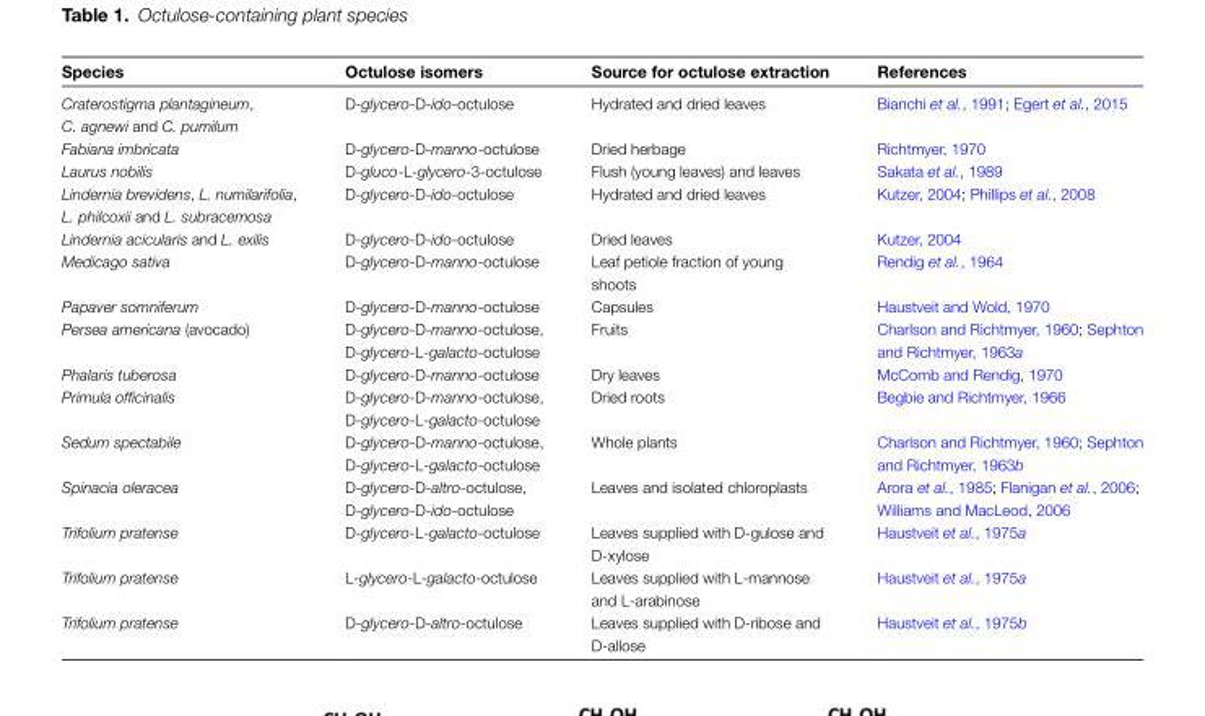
<table><thead><tr><td>Species</td><td>Octulose isomers</td><td>Source for octulose extraction</td><td>References</td></tr></thead><tbody><tr><td>Craterostigma plantagineum, C. agnewi and C. pumilum</td><td>D-glycero-D-ido-octulose</td><td>Hydrated and dried leaves</td><td>Bianchi et al., 1991; Egert et al., 2015</td></tr><tr><td>Fabiana imbricata</td><td>D-glycero-D-manno-octulose</td><td>Dried herbage</td><td>Richtmyer, 1970</td></tr><tr><td>Laurus nobilis</td><td>D-gluco-L-glycero-3-octulose</td><td>Flush (young leaves) and leaves</td><td>Sakata et al., 1989</td></tr><tr><td>Lindernia brevidens, L. numilarifolia, L. philcoxii and L. subracemosa</td><td>D-glycero-D-ido-octulose</td><td>Hydrated and dried leaves</td><td>Kutzer, 2004; Phillips et al., 2008</td></tr><tr><td>Lindernia acicularis and L. exilis</td><td>D-glycero-D-ido-octulose</td><td>Dried leaves</td><td>Kutzer, 2004</td></tr><tr><td>Medicago sativa</td><td>D-glycero-D-manno-octulose</td><td>Leaf petiole fraction of young shoots</td><td>Rendig et al., 1964</td></tr><tr><td>Papaver somniferum</td><td>D-glycero-D-manno-octulose</td><td>Capsules</td><td>Haustveit and Wold, 1970</td></tr><tr><td>Persea americana (avocado)</td><td>D-glycero-D-manno-octulose, D-glycero-L-galacto-octulose</td><td>Fruits</td><td>Charlson and Richtmyer, 1960; Sephton and Richtmyer, 1963a</td></tr><tr><td>Phalaris tuberosa</td><td>D-glycero-D-manno-octulose</td><td>Dry leaves</td><td>McComb and Rendig, 1970</td></tr><tr><td>Primula officinalis</td><td>D-glycero-D-manno-octulose, D-glycero-L-galacto-octulose</td><td>Dried roots</td><td>Begbie and Richtmyer, 1966</td></tr><tr><td>Sedum spectabile</td><td>D-glycero-D-manno-octulose, D-glycero-L-galacto-octulose</td><td>Whole plants</td><td>Charlson and Richtmyer, 1960; Sephton and Richtmyer, 1963b</td></tr><tr><td>Spinacia oleracea</td><td>D-glycero-D-altro-octulose, D-glycero-D-ido-octulose</td><td>Leaves and isolated chloroplasts</td><td>Arora et al., 1985; Flanigan et al., 2006; Williams and MacLeod, 2006</td></tr><tr><td>Trifolium pratense</td><td>D-glycero-L-galacto-octulose</td><td>Leaves supplied with D-gulose and D-xylose</td><td>Haustveit et al., 1975a</td></tr><tr><td>Trifolium pratense</td><td>L-glycero-L-galacto-octulose</td><td>Leaves supplied with L-mannose and L-arabinose</td><td>Haustveit et al., 1975a</td></tr><tr><td>Trifolium pratense</td><td>D-glycero-D-altro-octulose</td><td>Leaves supplied with D-ribose and D-allose</td><td>Haustveit et al., 1975b</td></tr></tbody></table>